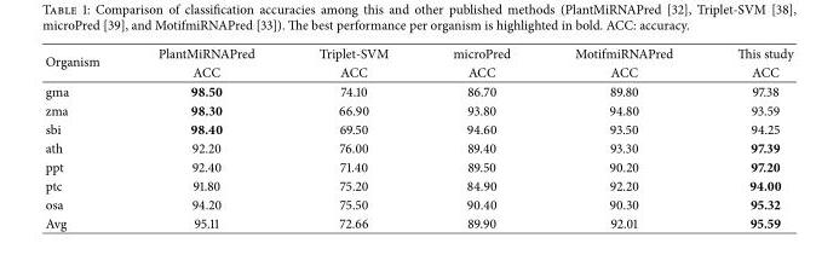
<table><thead><tr><td rowspan="2">Organism</td><td rowspan="2">PlantMiRNAPred ACC</td><td rowspan="2">Triplet-SVM ACC</td><td rowspan="2">microPred ACC</td><td rowspan="2">MotifmiRNAPred ACC</td><td rowspan="2">This study ACC</td></tr><tr></tr></thead><tbody><tr><td>gma</td><td>98.50</td><td>74.10</td><td>86.70</td><td>89.80</td><td>97.38</td></tr><tr><td>zma</td><td>98.30</td><td>66.90</td><td>93.80</td><td>94.80</td><td>93.59</td></tr><tr><td>sbi</td><td>98.40</td><td>69.50</td><td>94.60</td><td>93.50</td><td>94.25</td></tr><tr><td>ath</td><td>92.20</td><td>76.00</td><td>89.40</td><td>93.30</td><td>97.39</td></tr><tr><td>ppt</td><td>92.40</td><td>71.40</td><td>89.50</td><td>90.20</td><td>97.20</td></tr><tr><td>ptc</td><td>91.80</td><td>75.20</td><td>84.90</td><td>92.20</td><td>94.00</td></tr><tr><td>osa</td><td>94.20</td><td>75.50</td><td>90.40</td><td>90.30</td><td>95.32</td></tr><tr><td>Avg</td><td>95.11</td><td>72.66</td><td>89.90</td><td>92.01</td><td>95.59</td></tr></tbody></table>